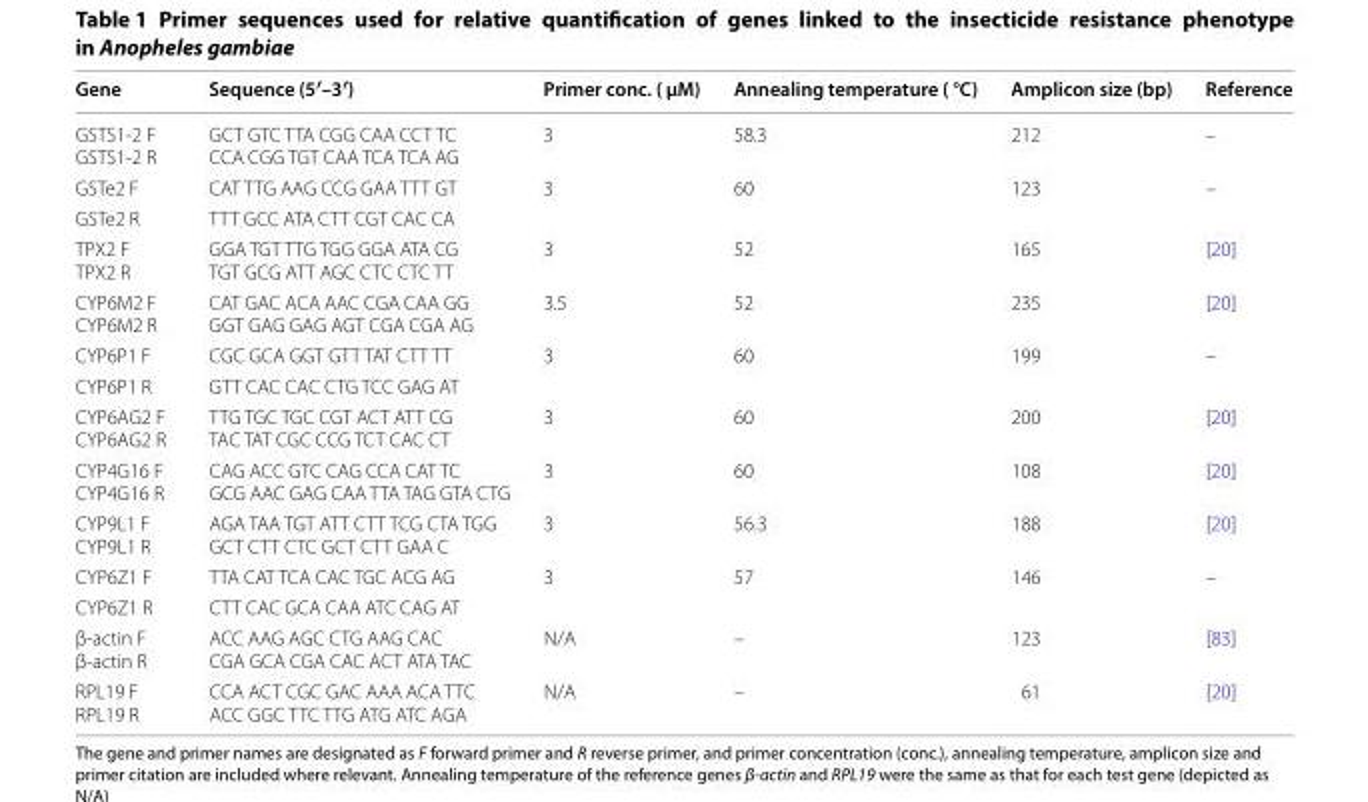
<table><thead><tr><td>Gene</td><td>Sequence (5′–3′)</td><td>Primer conc. ( μM)</td><td>Annealing temperature ( °C)</td><td>Amplicon size (bp)</td><td>Reference</td></tr></thead><tbody><tr><td>GSTS1‑2 F GSTS1‑2 R</td><td>GCT GTC TTA CGG CAA CCT TC CCA CGG TGT CAA TCA TCA AG</td><td>3</td><td>58.3</td><td>212</td><td>–</td></tr><tr><td>GSTe2 F</td><td>CAT TTG AAG CCG GAA TTT GT</td><td>3</td><td>60</td><td>123</td><td>–</td></tr><tr><td>GSTe2 R</td><td>TTT GCC ATA CTT CGT CAC CA</td><td></td><td></td><td></td><td></td></tr><tr><td>TPX2 F TPX2 R</td><td>GGA TGT TTG TGG GGA ATA CG TGT GCG ATT AGC CTC CTC TT</td><td>3</td><td>52</td><td>165</td><td>[20]</td></tr><tr><td>CYP6M2 F CYP6M2 R</td><td>CAT GAC ACA AAC CGA CAA GG GGT GAG GAG AGT CGA CGA AG</td><td>3.5</td><td>52</td><td>235</td><td>[20]</td></tr><tr><td>CYP6P1 F</td><td>CGC GCA GGT GTT TAT CTT TT</td><td>3</td><td>60</td><td>199</td><td>–</td></tr><tr><td>CYP6P1 R</td><td>GTT CAC CAC CTG TCC GAG AT</td><td></td><td></td><td></td><td></td></tr><tr><td>CYP6AG2 F CYP6AG2 R</td><td>TTG TGC TGC CGT ACT ATT CG TAC TAT CGC CCG TCT CAC CT</td><td>3</td><td>60</td><td>200</td><td>[20]</td></tr><tr><td>CYP4G16 F CYP4G16 R</td><td>CAG ACC GTC CAG CCA CAT TC GCG AAC GAG CAA TTA TAG GTA CTG</td><td>3</td><td>60</td><td>108</td><td>[20]</td></tr><tr><td>CYP9L1 F CYP9L1 R</td><td>AGA TAA TGT ATT CTT TCG CTA TGG GCT CTT CTC GCT CTT GAA C</td><td>3</td><td>56.3</td><td>188</td><td>[20]</td></tr><tr><td>CYP6Z1 F</td><td>TTA CAT TCA CAC TGC ACG AG</td><td>3</td><td>57</td><td>146</td><td>–</td></tr><tr><td>CYP6Z1 R</td><td>CTT CAC GCA CAA ATC CAG AT</td><td></td><td></td><td></td><td></td></tr><tr><td>β‑actin F β‑actin R</td><td>ACC AAG AGC CTG AAG CAC CGA GCA CGA CAC ACT ATA TAC</td><td>N/A</td><td>–</td><td>123</td><td>[83]</td></tr><tr><td>RPL19 F RPL19 R</td><td>CCA ACT CGC GAC AAA ACA TTC ACC GGC TTC TTG ATG ATC AGA</td><td>N/A</td><td>–</td><td>61</td><td>[20]</td></tr></tbody></table>